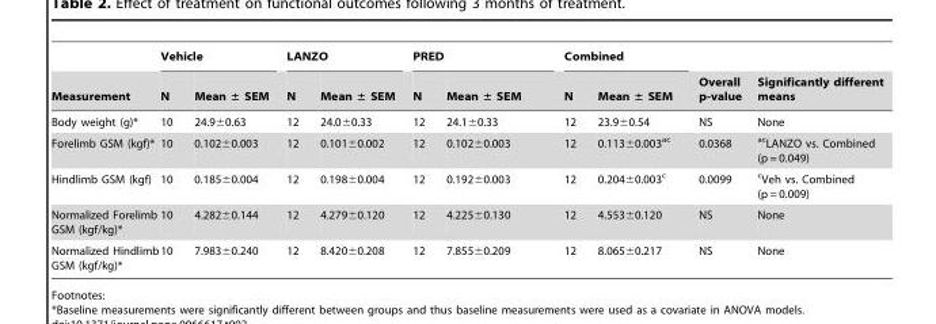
<table><thead><tr><td rowspan="2">Measurement</td><td colspan="2">Vehicle</td><td colspan="2">LANZO</td><td colspan="2">PRED</td><td colspan="2">Combined</td><td rowspan="2">Overall p-value</td><td rowspan="2">Significantly different means</td></tr><tr><td>N</td><td>Mean ± SEM</td><td>N</td><td>Mean ± SEM</td><td>N</td><td>Mean ± SEM</td><td>N</td><td>Mean ± SEM</td></tr></thead><tbody><tr><td>Body weight (g)*</td><td>10</td><td>24.9±0.63</td><td>12</td><td>24.0±0.33</td><td>12</td><td>24.1±0.33</td><td>12</td><td>23.9±0.54</td><td>NS</td><td>None</td></tr><tr><td>Forelimb GSM (kgf)*</td><td>10</td><td>0.102±0.003</td><td>12</td><td>0.101±0.002</td><td>12</td><td>0.102±0.003</td><td>12</td><td>0.113±0.003<sup>ac</sup></td><td>0.0368</td><td><sup>ac</sup>LANZO vs. Combined (p = 0.049)</td></tr><tr><td>Hindlimb GSM (kgf)</td><td>10</td><td>0.185±0.004</td><td>12</td><td>0.198±0.004</td><td>12</td><td>0.192±0.003</td><td>12</td><td>0.204±0.003<sup>c</sup></td><td>0.0099</td><td><sup>c</sup>Veh vs. Combined (p = 0.009)</td></tr><tr><td>Normalized Forelimb GSM (kgf/kg)*</td><td>10</td><td>4.282±0.144</td><td>12</td><td>4.279±0.120</td><td>12</td><td>4.225±0.130</td><td>12</td><td>4.553±0.120</td><td>NS</td><td>None</td></tr><tr><td>Normalized Hindlimb GSM (kgf/kg)*</td><td>10</td><td>7.983±0.240</td><td>12</td><td>8.420±0.208</td><td>12</td><td>7.855±0.209</td><td>12</td><td>8.065±0.217</td><td>NS</td><td>None</td></tr></tbody></table>